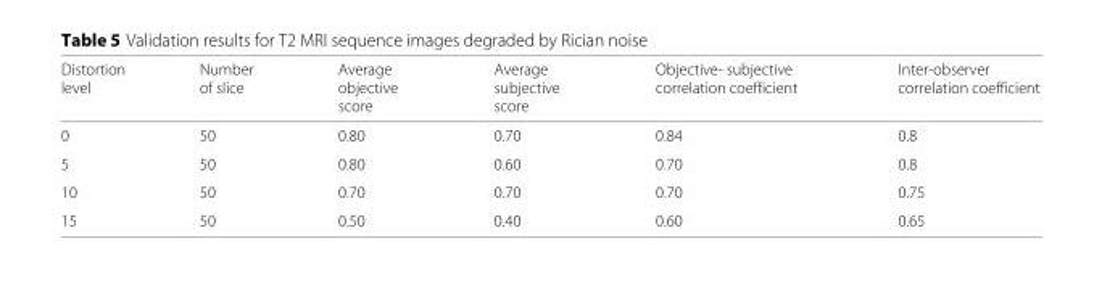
<table><thead><tr><td>Distortion level</td><td>Number of slice</td><td>Average objective score</td><td>Average subjective score</td><td>Objective- subjective correlation coefficient</td><td>Inter-observer correlation coefficient</td></tr></thead><tbody><tr><td>0</td><td>50</td><td>0.80</td><td>0.70</td><td>0.84</td><td>0.8</td></tr><tr><td>5</td><td>50</td><td>0.80</td><td>0.60</td><td>0.70</td><td>0.8</td></tr><tr><td>10</td><td>50</td><td>0.70</td><td>0.70</td><td>0.70</td><td>0.75</td></tr><tr><td>15</td><td>50</td><td>0.50</td><td>0.40</td><td>0.60</td><td>0.65</td></tr></tbody></table>